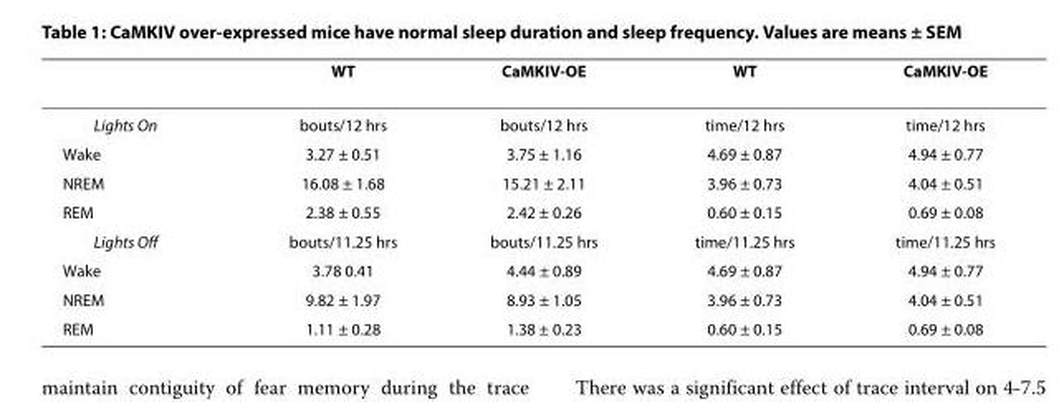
<table><thead><tr><td></td><td>WT</td><td>CaMKIV-OE</td><td>WT</td><td>CaMKIV-OE</td></tr></thead><tbody><tr><td>Lights On</td><td>bouts/12 hrs</td><td>bouts/12 hrs</td><td>time/12 hrs</td><td>time/12 hrs</td></tr><tr><td>Wake</td><td>3.27 ± 0.51</td><td>3.75 ± 1.16</td><td>4.69 ± 0.87</td><td>4.94 ± 0.77</td></tr><tr><td>NREM</td><td>16.08 ± 1.68</td><td>15.21 ± 2.11</td><td>3.96 ± 0.73</td><td>4.04 ± 0.51</td></tr><tr><td>REM</td><td>2.38 ± 0.55</td><td>2.42 ± 0.26</td><td>0.60 ± 0.15</td><td>0.69 ± 0.08</td></tr><tr><td>Lights Off</td><td>bouts/11.25 hrs</td><td>bouts/11.25 hrs</td><td>time/11.25 hrs</td><td>time/11.25 hrs</td></tr><tr><td>Wake</td><td>3.78 0.41</td><td>4.44 ± 0.89</td><td>4.69 ± 0.87</td><td>4.94 ± 0.77</td></tr><tr><td>NREM</td><td>9.82 ± 1.97</td><td>8.93 ± 1.05</td><td>3.96 ± 0.73</td><td>4.04 ± 0.51</td></tr><tr><td>REM</td><td>1.11 ± 0.28</td><td>1.38 ± 0.23</td><td>0.60 ± 0.15</td><td>0.69 ± 0.08</td></tr></tbody></table>